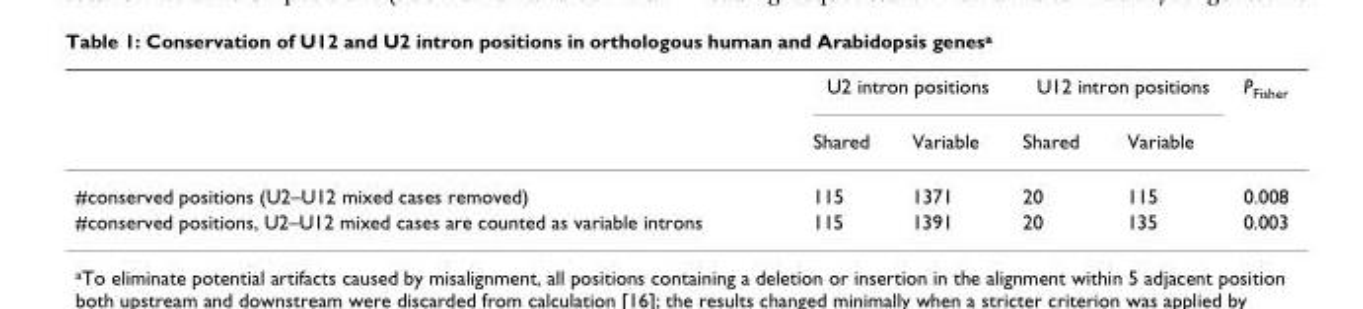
<table><thead><tr><td rowspan="2"></td><td colspan="2">U2 intron positions</td><td colspan="2">U12 intron positions</td><td rowspan="2">P<sub>Fisher</sub></td></tr><tr><td>Shared</td><td>Variable</td><td>Shared</td><td>Variable</td></tr></thead><tbody><tr><td>#conserved positions (U2–U12 mixed cases removed)</td><td>115</td><td>1371</td><td>20</td><td>115</td><td>0.008</td></tr><tr><td>#conserved positions, U2–U12 mixed cases are counted as variable introns</td><td>115</td><td>1391</td><td>20</td><td>135</td><td>0.003</td></tr></tbody></table>